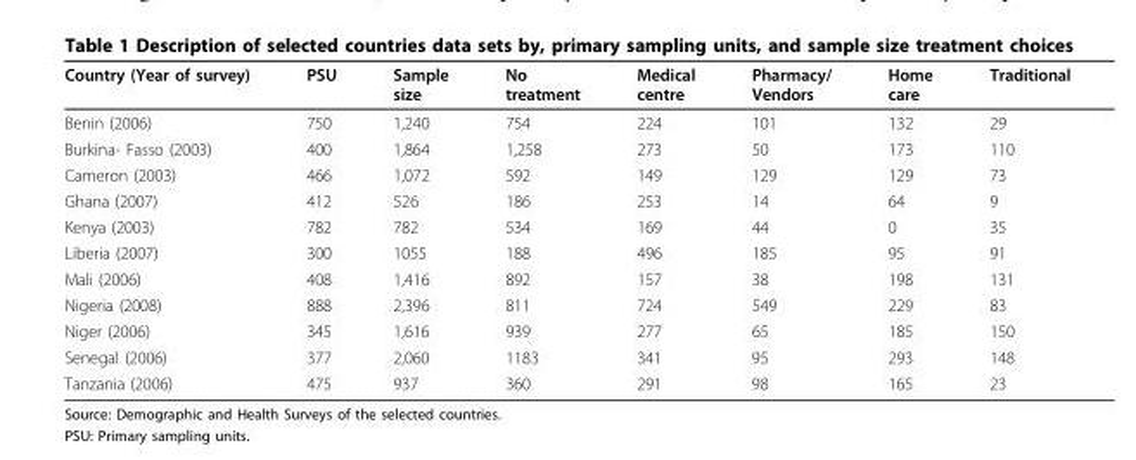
<table><thead><tr><td>Country (Year of survey)</td><td>PSU</td><td>Sample size</td><td>No treatment</td><td>Medical centre</td><td>Pharmacy/ Vendors</td><td>Home care</td><td>Traditional</td></tr></thead><tbody><tr><td>Benin (2006)</td><td>750</td><td>1,240</td><td>754</td><td>224</td><td>101</td><td>132</td><td>29</td></tr><tr><td>Burkina- Fasso (2003)</td><td>400</td><td>1,864</td><td>1,258</td><td>273</td><td>50</td><td>173</td><td>110</td></tr><tr><td>Cameron (2003)</td><td>466</td><td>1,072</td><td>592</td><td>149</td><td>129</td><td>129</td><td>73</td></tr><tr><td>Ghana (2007)</td><td>412</td><td>526</td><td>186</td><td>253</td><td>14</td><td>64</td><td>9</td></tr><tr><td>Kenya (2003)</td><td>782</td><td>782</td><td>534</td><td>169</td><td>44</td><td>0</td><td>35</td></tr><tr><td>Liberia (2007)</td><td>300</td><td>1055</td><td>188</td><td>496</td><td>185</td><td>95</td><td>91</td></tr><tr><td>Mali (2006)</td><td>408</td><td>1,416</td><td>892</td><td>157</td><td>38</td><td>198</td><td>131</td></tr><tr><td>Nigeria (2008)</td><td>888</td><td>2,396</td><td>811</td><td>724</td><td>549</td><td>229</td><td>83</td></tr><tr><td>Niger (2006)</td><td>345</td><td>1,616</td><td>939</td><td>277</td><td>65</td><td>185</td><td>150</td></tr><tr><td>Senegal (2006)</td><td>377</td><td>2,060</td><td>1183</td><td>341</td><td>95</td><td>293</td><td>148</td></tr><tr><td>Tanzania (2006)</td><td>475</td><td>937</td><td>360</td><td>291</td><td>98</td><td>165</td><td>23</td></tr></tbody></table>